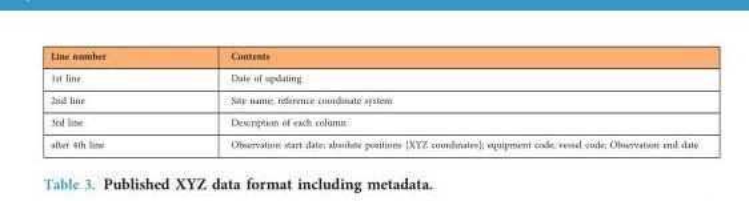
<table><thead><tr><td>Line number</td><td>Contents</td></tr></thead><tbody><tr><td>1st line</td><td>Date of updating</td></tr><tr><td>2nd line</td><td>Site name; reference coordinate system</td></tr><tr><td>3rd line</td><td>Description of each column</td></tr><tr><td>after 4th line</td><td>Observation start date; absolute positions [XYZ coordinates]; equipment code; vessel code; Observation end date</td></tr></tbody></table>